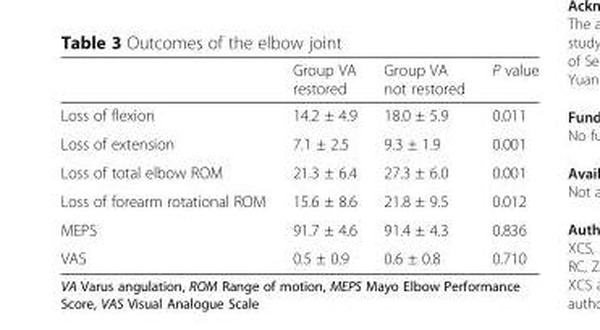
<table><thead><tr><td></td><td>Group VA restored</td><td>Group VA not restored</td><td>P value</td></tr></thead><tbody><tr><td>Loss of flexion</td><td>14.2 ± 4.9</td><td>18.0 ± 5.9</td><td>0.011</td></tr><tr><td>Loss of extension</td><td>7.1 ± 2.5</td><td>9.3 ± 1.9</td><td>0.001</td></tr><tr><td>Loss of total elbow ROM</td><td>21.3 ± 6.4</td><td>27.3 ± 6.0</td><td>0.001</td></tr><tr><td>Loss of forearm rotational ROM</td><td>15.6 ± 8.6</td><td>21.8 ± 9.5</td><td>0.012</td></tr><tr><td>MEPS</td><td>91.7 ± 4.6</td><td>91.4 ± 4.3</td><td>0.836</td></tr><tr><td>VAS</td><td>0.5 ± 0.9</td><td>0.6 ± 0.8</td><td>0.710</td></tr></tbody></table>